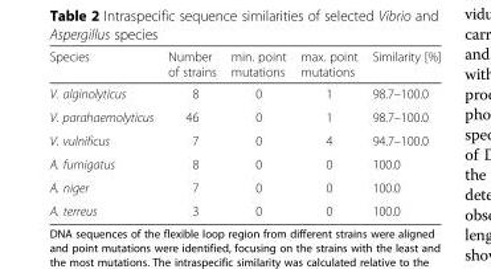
<table><thead><tr><td>Species</td><td>Number of strains</td><td>min. point mutations</td><td>max. point mutations</td><td>Similarity [%]</td></tr></thead><tbody><tr><td>V. alginolyticus</td><td>8</td><td>0</td><td>1</td><td>98.7–100.0</td></tr><tr><td>V. parahaemolyticus</td><td>46</td><td>0</td><td>1</td><td>98.7–100.0</td></tr><tr><td>V. vulnificus</td><td>7</td><td>0</td><td>4</td><td>94.7–100.0</td></tr><tr><td>A. fumigatus</td><td>8</td><td>0</td><td>0</td><td>100.0</td></tr><tr><td>A. niger</td><td>7</td><td>0</td><td>0</td><td>100.0</td></tr><tr><td>A. terreus</td><td>3</td><td>0</td><td>0</td><td>100.0</td></tr></tbody></table>